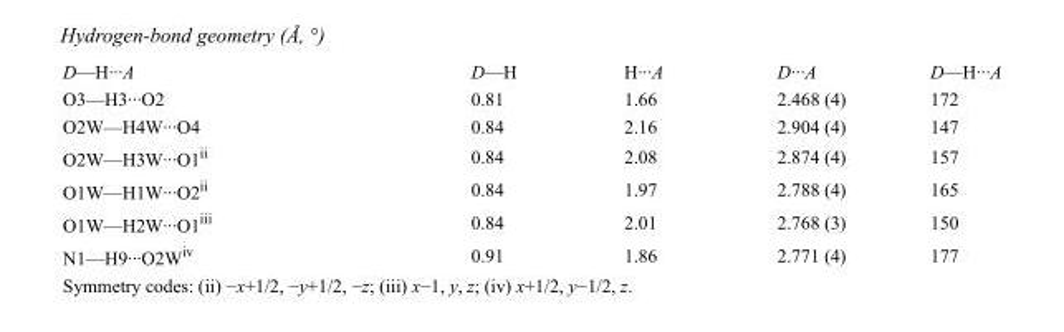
<table><tbody><tr><td>D—H···A</td><td>D—H</td><td>H···A</td><td>D···A</td><td>D—H···A</td></tr><tr><td>O3—H3···O2</td><td>0.81</td><td>1.66</td><td>2.468 (4)</td><td>172</td></tr><tr><td>O2W—H4W···O4</td><td>0.84</td><td>2.16</td><td>2.904 (4)</td><td>147</td></tr><tr><td>O2W—H3W···O1<sup>ii</sup></td><td>0.84</td><td>2.08</td><td>2.874 (4)</td><td>157</td></tr><tr><td>O1W—H1W···O2<sup>ii</sup></td><td>0.84</td><td>1.97</td><td>2.788 (4)</td><td>165</td></tr><tr><td>O1W—H2W···O1<sup>iii</sup></td><td>0.84</td><td>2.01</td><td>2.768 (3)</td><td>150</td></tr><tr><td>N1—H9···O2W<sup>iv</sup></td><td>0.91</td><td>1.86</td><td>2.771 (4)</td><td>177</td></tr></tbody></table>